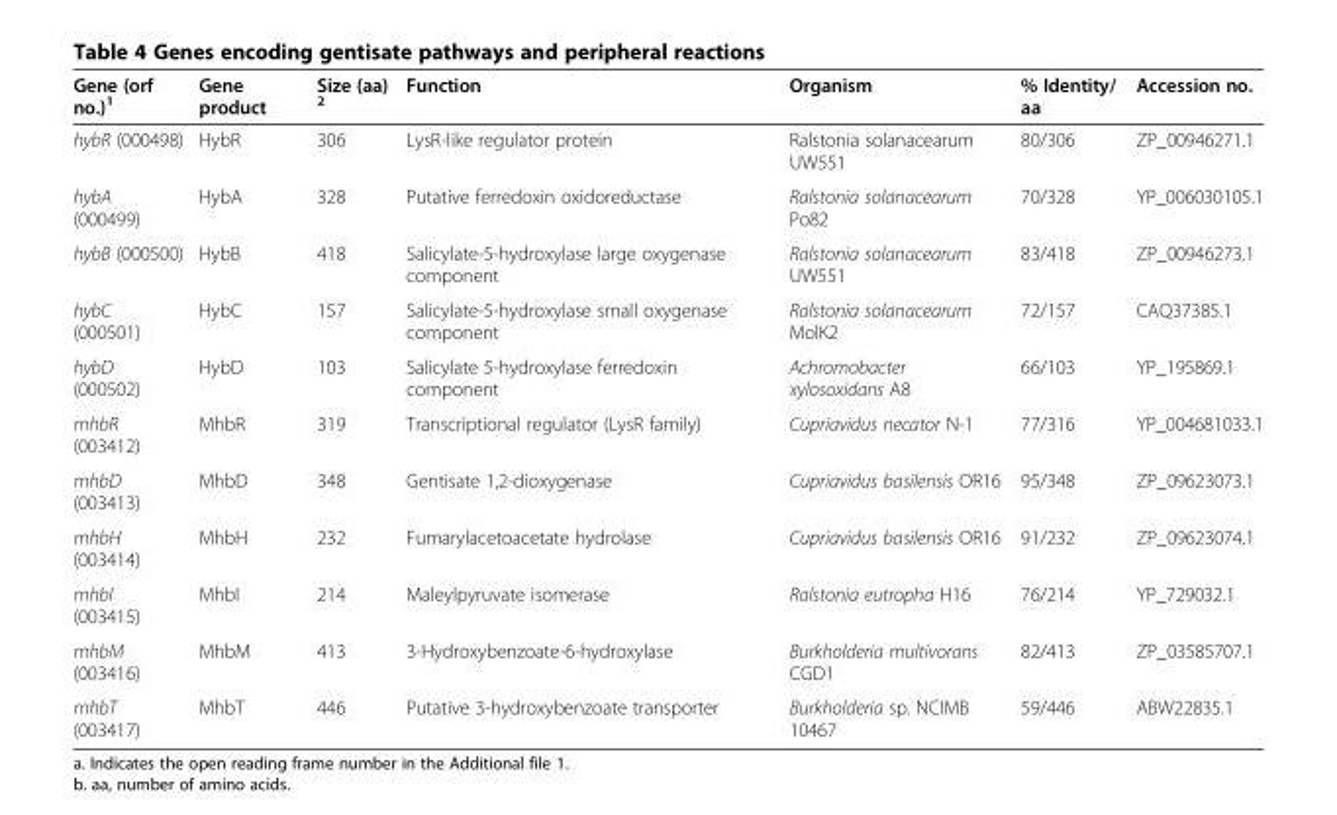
<table><thead><tr><td>Gene (orf no.)<sup>1</sup></td><td>Gene product</td><td>Size (aa) <sup>2</sup></td><td>Function</td><td>Organism</td><td>% Identity/ aa</td><td>Accession no.</td></tr></thead><tbody><tr><td>hybR (000498)</td><td>HybR</td><td>306</td><td>LysR-like regulator protein</td><td>Ralstonia solanacearum UW551</td><td>80/306</td><td>ZP_00946271.1</td></tr><tr><td>hybA (000499)</td><td>HybA</td><td>328</td><td>Putative ferredoxin oxidoreductase</td><td>Ralstonia solanacearum Po82</td><td>70/328</td><td>YP_006030105.1</td></tr><tr><td>hybB (000500)</td><td>HybB</td><td>418</td><td>Salicylate-5-hydroxylase large oxygenase component</td><td>Ralstonia solanacearum UW551</td><td>83/418</td><td>ZP_00946273.1</td></tr><tr><td>hybC (000501)</td><td>HybC</td><td>157</td><td>Salicylate-5-hydroxylase small oxygenase component</td><td>Ralstonia solanacearum MolK2</td><td>72/157</td><td>CAQ37385.1</td></tr><tr><td>hybD (000502)</td><td>HybD</td><td>103</td><td>Salicylate 5-hydroxylase ferredoxin component</td><td>Achromobacter xylosoxidans A8</td><td>66/103</td><td>YP_195869.1</td></tr><tr><td>mhbR (003412)</td><td>MhbR</td><td>319</td><td>Transcriptional regulator (LysR family)</td><td>Cupriavidus necator N-1</td><td>77/316</td><td>YP_004681033.1</td></tr><tr><td>mhbD (003413)</td><td>MhbD</td><td>348</td><td>Gentisate 1,2-dioxygenase</td><td>Cupriavidus basilensis OR16</td><td>95/348</td><td>ZP_09623073.1</td></tr><tr><td>mhbH (003414)</td><td>MhbH</td><td>232</td><td>Fumarylacetoacetate hydrolase</td><td>Cupriavidus basilensis OR16</td><td>91/232</td><td>ZP_09623074.1</td></tr><tr><td>mhbI (003415)</td><td>MhbI</td><td>214</td><td>Maleylpyruvate isomerase</td><td>Ralstonia eutropha H16</td><td>76/214</td><td>YP_729032.1</td></tr><tr><td>mhbM (003416)</td><td>MhbM</td><td>413</td><td>3-Hydroxybenzoate-6-hydroxylase</td><td>Burkholderia multivorans CGD1</td><td>82/413</td><td>ZP_03585707.1</td></tr><tr><td>mhbT (003417)</td><td>MhbT</td><td>446</td><td>Putative 3-hydroxybenzoate transporter</td><td>Burkholderia sp. NCIMB 10467</td><td>59/446</td><td>ABW22835.1</td></tr></tbody></table>